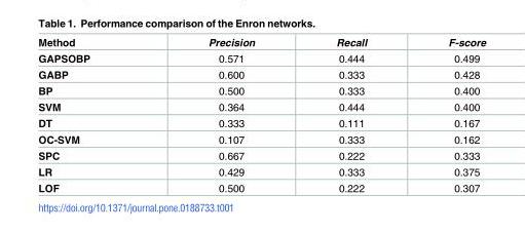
<table><thead><tr><td>Method</td><td>Precision</td><td>Recall</td><td>F-score</td></tr></thead><tbody><tr><td>GAPSOBP</td><td>0.571</td><td>0.444</td><td>0.499</td></tr><tr><td>GABP</td><td>0.600</td><td>0.333</td><td>0.428</td></tr><tr><td>BP</td><td>0.500</td><td>0.333</td><td>0.400</td></tr><tr><td>SVM</td><td>0.364</td><td>0.444</td><td>0.400</td></tr><tr><td>DT</td><td>0.333</td><td>0.111</td><td>0.167</td></tr><tr><td>OC-SVM</td><td>0.107</td><td>0.333</td><td>0.162</td></tr><tr><td>SPC</td><td>0.667</td><td>0.222</td><td>0.333</td></tr><tr><td>LR</td><td>0.429</td><td>0.333</td><td>0.375</td></tr><tr><td>LOF</td><td>0.500</td><td>0.222</td><td>0.307</td></tr></tbody></table>